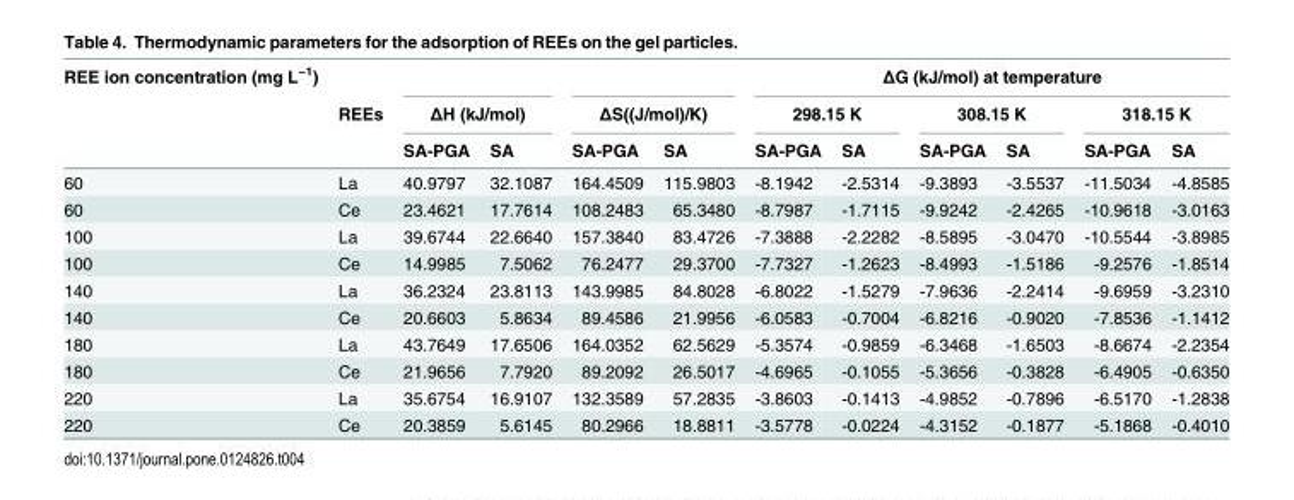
<table><thead><tr><td rowspan="3">REE ion concentration (mg L<sup>−1</sup>)</td><td rowspan="3">REEs</td><td></td><td></td><td></td><td></td><td colspan="6">ΔG (kJ/mol) at temperature</td></tr><tr><td colspan="2">ΔH (kJ/mol)</td><td colspan="2">ΔS((J/mol)/K)</td><td colspan="2">298.15 K</td><td colspan="2">308.15 K</td><td colspan="2">318.15 K</td></tr><tr><td>SA-PGA</td><td>SA</td><td>SA-PGA</td><td>SA</td><td>SA-PGA</td><td>SA</td><td>SA-PGA</td><td>SA</td><td>SA-PGA</td><td>SA</td></tr></thead><tbody><tr><td>60</td><td>La</td><td>40.9797</td><td>32.1087</td><td>164.4509</td><td>115.9803</td><td>-8.1942</td><td>-2.5314</td><td>-9.3893</td><td>-3.5537</td><td>-11.5034</td><td>-4.8585</td></tr><tr><td>60</td><td>Ce</td><td>23.4621</td><td>17.7614</td><td>108.2483</td><td>65.3480</td><td>-8.7987</td><td>-1.7115</td><td>-9.9242</td><td>-2.4265</td><td>-10.9618</td><td>-3.0163</td></tr><tr><td>100</td><td>La</td><td>39.6744</td><td>22.6640</td><td>157.3840</td><td>83.4726</td><td>-7.3888</td><td>-2.2282</td><td>-8.5895</td><td>-3.0470</td><td>-10.5544</td><td>-3.8985</td></tr><tr><td>100</td><td>Ce</td><td>14.9985</td><td>7.5062</td><td>76.2477</td><td>29.3700</td><td>-7.7327</td><td>-1.2623</td><td>-8.4993</td><td>-1.5186</td><td>-9.2576</td><td>-1.8514</td></tr><tr><td>140</td><td>La</td><td>36.2324</td><td>23.8113</td><td>143.9985</td><td>84.8028</td><td>-6.8022</td><td>-1.5279</td><td>-7.9636</td><td>-2.2414</td><td>-9.6959</td><td>-3.2310</td></tr><tr><td>140</td><td>Ce</td><td>20.6603</td><td>5.8634</td><td>89.4586</td><td>21.9956</td><td>-6.0583</td><td>-0.7004</td><td>-6.8216</td><td>-0.9020</td><td>-7.8536</td><td>-1.1412</td></tr><tr><td>180</td><td>La</td><td>43.7649</td><td>17.6506</td><td>164.0352</td><td>62.5629</td><td>-5.3574</td><td>-0.9859</td><td>-6.3468</td><td>-1.6503</td><td>-8.6674</td><td>-2.2354</td></tr><tr><td>180</td><td>Ce</td><td>21.9656</td><td>7.7920</td><td>89.2092</td><td>26.5017</td><td>-4.6965</td><td>-0.1055</td><td>-5.3656</td><td>-0.3828</td><td>-6.4905</td><td>-0.6350</td></tr><tr><td>220</td><td>La</td><td>35.6754</td><td>16.9107</td><td>132.3589</td><td>57.2835</td><td>-3.8603</td><td>-0.1413</td><td>-4.9852</td><td>-0.7896</td><td>-6.5170</td><td>-1.2838</td></tr><tr><td>220</td><td>Ce</td><td>20.3859</td><td>5.6145</td><td>80.2966</td><td>18.8811</td><td>-3.5778</td><td>-0.0224</td><td>-4.3152</td><td>-0.1877</td><td>-5.1868</td><td>-0.4010</td></tr></tbody></table>